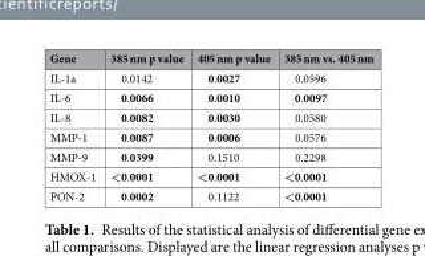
<table><thead><tr><td>Gene</td><td>385 nm p value</td><td>405 nm p value</td><td>385 nm vs. 405 nm</td></tr></thead><tbody><tr><td>IL-1a</td><td>0.0142</td><td>0.0027</td><td>0.0596</td></tr><tr><td>IL-6</td><td>0.0066</td><td>0.0010</td><td>0.0097</td></tr><tr><td>IL-8</td><td>0.0082</td><td>0.0030</td><td>0.0580</td></tr><tr><td>MMP-1</td><td>0.0087</td><td>0.0006</td><td>0.0576</td></tr><tr><td>MMP-9</td><td>0.0399</td><td>0.1510</td><td>0.2298</td></tr><tr><td>HMOX-1</td><td>&lt;0.0001</td><td>&lt;0.0001</td><td>&lt;0.0001</td></tr><tr><td>PON-2</td><td>0.0002</td><td>0.1122</td><td>&lt;0.0001</td></tr></tbody></table>